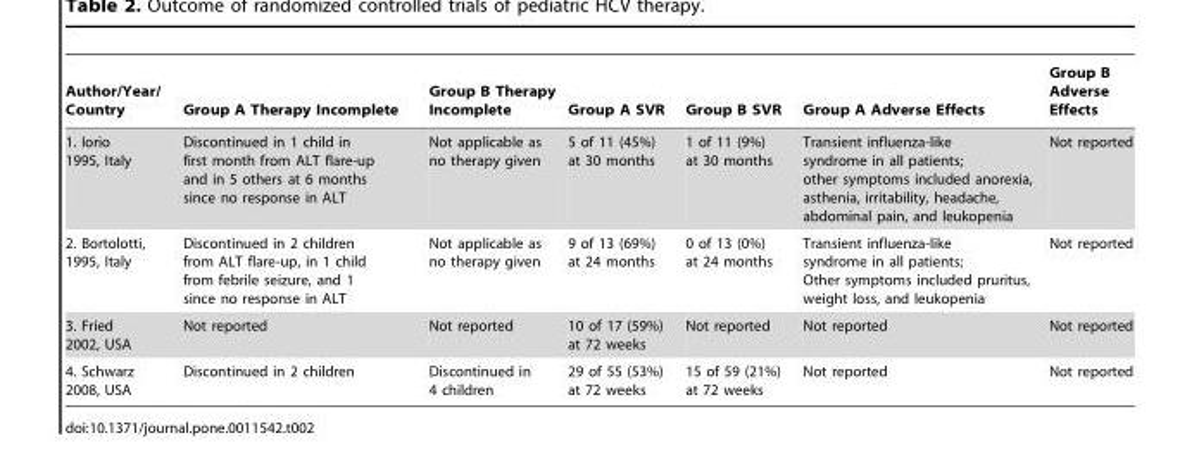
<table><thead><tr><td>Author/Year/ Country</td><td>Group A Therapy Incomplete</td><td>Group B Therapy Incomplete</td><td>Group A SVR</td><td>Group B SVR</td><td>Group A Adverse Effects</td><td>Group B Adverse Effects</td></tr></thead><tbody><tr><td>1. Iorio 1995, Italy</td><td>Discontinued in 1 child in first month from ALT flare-up and in 5 others at 6 months since no response in ALT</td><td>Not applicable as no therapy given</td><td>5 of 11 (45%) at 30 months</td><td>1 of 11 (9%) at 30 months</td><td>Transient influenza-like syndrome in all patients; other symptoms included anorexia, asthenia, irritability, headache, abdominal pain, and leukopenia</td><td>Not reported</td></tr><tr><td>2. Bortolotti, 1995, Italy</td><td>Discontinued in 2 children from ALT flare-up, in 1 child from febrile seizure, and 1 since no response in ALT</td><td>Not applicable as no therapy given</td><td>9 of 13 (69%) at 24 months</td><td>0 of 13 (0%) at 24 months</td><td>Transient influenza-like syndrome in all patients; Other symptoms included pruritus, weight loss, and leukopenia</td><td>Not reported</td></tr><tr><td>3. Fried 2002, USA</td><td>Not reported</td><td>Not reported</td><td>10 of 17 (59%) at 72 weeks</td><td>Not reported</td><td>Not reported</td><td>Not reported</td></tr><tr><td>4. Schwarz 2008, USA</td><td>Discontinued in 2 children</td><td>Discontinued in 4 children</td><td>29 of 55 (53%) at 72 weeks</td><td>15 of 59 (21%) at 72 weeks</td><td>Not reported</td><td>Not reported</td></tr></tbody></table>